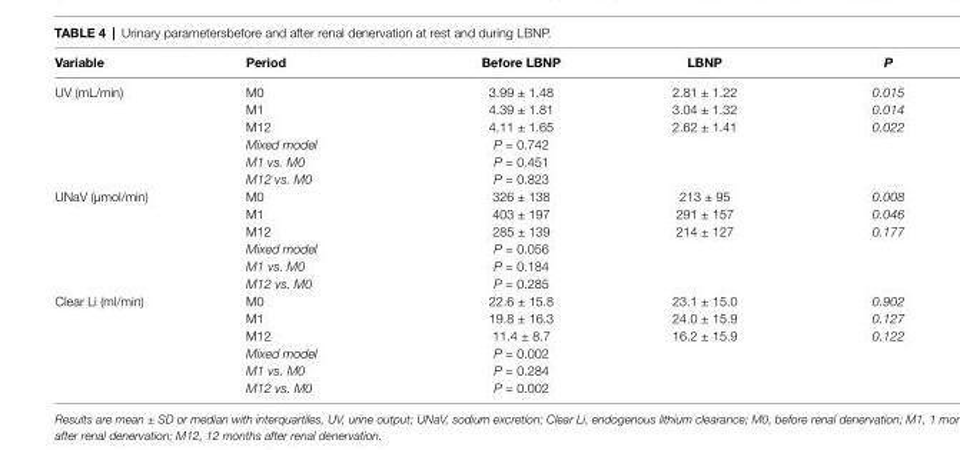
<table><thead><tr><td>Variable</td><td>Period</td><td>Before lBnP</td><td>lBnP</td><td>P</td></tr></thead><tbody><tr><td rowspan="6">UV (mL/min)</td><td>M0</td><td>3.99 ± 1.48</td><td>2.81 ± 1.22</td><td>0.015</td></tr><tr><td>M1</td><td>4.39 ± 1.81</td><td>3.04 ± 1.32</td><td>0.014</td></tr><tr><td>M12</td><td>4.11 ± 1.65</td><td>2.62 ± 1.41</td><td>0.022</td></tr><tr><td>Mixed model</td><td>P = 0.742</td><td></td><td></td></tr><tr><td>M1 vs. M0</td><td>P = 0.451</td><td></td><td></td></tr><tr><td>M12 vs. M0</td><td>P = 0.823</td><td></td><td></td></tr><tr><td rowspan="6">UNaV (µmol/min)</td><td>M0</td><td>326 ± 138</td><td>213 ± 95</td><td>0.008</td></tr><tr><td>M1</td><td>403 ± 197</td><td>291 ± 157</td><td>0.046</td></tr><tr><td>M12</td><td>285 ± 139</td><td>214 ± 127</td><td>0.177</td></tr><tr><td>Mixed model</td><td>P = 0.056</td><td></td><td></td></tr><tr><td>M1 vs. M0</td><td>P = 0.184</td><td></td><td></td></tr><tr><td>M12 vs. M0</td><td>P = 0.285</td><td></td><td></td></tr><tr><td rowspan="6">Clear Li (ml/min)</td><td>M0</td><td>22.6 ± 15.8</td><td>23.1 ± 15.0</td><td>0.902</td></tr><tr><td>M1</td><td>19.8 ± 16.3</td><td>24.0 ± 15.9</td><td>0.127</td></tr><tr><td>M12</td><td>11.4 ± 8.7</td><td>16.2 ± 15.9</td><td>0.122</td></tr><tr><td>Mixed model</td><td>P = 0.002</td><td></td><td></td></tr><tr><td>M1 vs. M0</td><td>P = 0.284</td><td></td><td></td></tr><tr><td>M12 vs. M0</td><td>P = 0.002</td><td></td><td></td></tr></tbody></table>